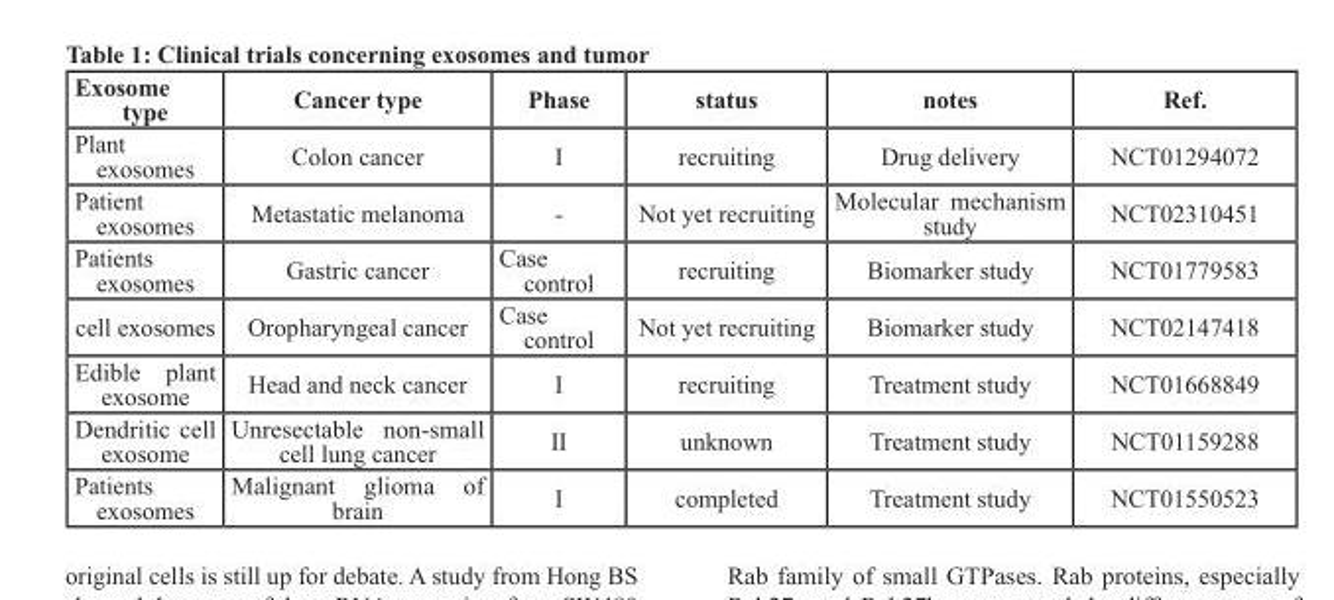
<table><thead><tr><td>Exosome type</td><td>Cancer type</td><td>Phase</td><td>status</td><td>notes</td><td>Ref.</td></tr></thead><tbody><tr><td>Plant exosomes</td><td>Colon cancer</td><td>I</td><td>recruiting</td><td>Drug delivery</td><td>NCT01294072</td></tr><tr><td>Patient exosomes</td><td>Metastatic melanoma</td><td>-</td><td>Not yet recruiting</td><td>Molecular mechanism study</td><td>NCT02310451</td></tr><tr><td>Patients exosomes</td><td>Gastric cancer</td><td>Case control</td><td>recruiting</td><td>Biomarker study</td><td>NCT01779583</td></tr><tr><td>cell exosomes</td><td>Oropharyngeal cancer</td><td>Case control</td><td>Not yet recruiting</td><td>Biomarker study</td><td>NCT02147418</td></tr><tr><td>Edible plant exosome</td><td>Head and neck cancer</td><td>I</td><td>recruiting</td><td>Treatment study</td><td>NCT01668849</td></tr><tr><td>Dendritic cell exosome</td><td>Unresectable non-small cell lung cancer</td><td>II</td><td>unknown</td><td>Treatment study</td><td>NCT01159288</td></tr><tr><td>Patients exosomes</td><td>Malignant glioma of brain</td><td>I</td><td>completed</td><td>Treatment study</td><td>NCT01550523</td></tr></tbody></table>